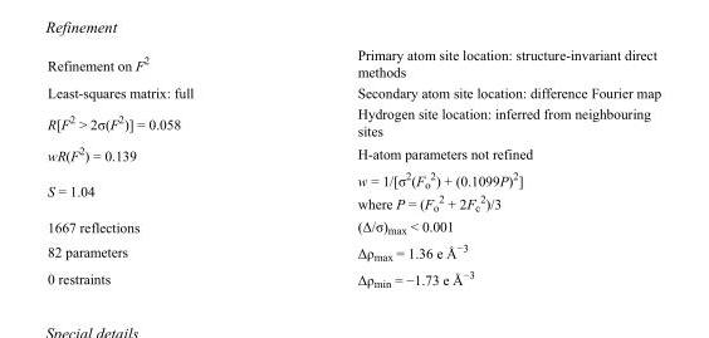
<table><tbody><tr><td>Refinement on F<sup>2</sup></td><td>Primary atom site location: structure-invariant direct methods</td></tr><tr><td>Least-squares matrix: full</td><td>Secondary atom site location: difference Fourier map</td></tr><tr><td>R[F<sup>2</sup> &gt; 2σ(F<sup>2</sup>)] = 0.058</td><td>Hydrogen site location: inferred from neighbouring sites</td></tr><tr><td>wR(F<sup>2</sup>) = 0.139</td><td>H-atom parameters not refined</td></tr><tr><td>S = 1.04</td><td>w = 1/[σ<sup>2</sup>(F<sub>o</sub> <sup>2</sup>) + (0.1099P)<sup>2</sup>] where P = (F<sub>o</sub> <sup>2</sup> + 2F<sub>c</sub> <sup>2</sup>)/3</td></tr><tr><td>1667 reflections</td><td>(Δ/σ)<sub>max</sub> &lt; 0.001</td></tr><tr><td>82 parameters</td><td>Δρ<sub>max</sub> = 1.36 e Å<sup>−3</sup></td></tr><tr><td>0 restraints</td><td>Δρ<sub>min</sub> = −1.73 e Å<sup>−3</sup></td></tr></tbody></table>